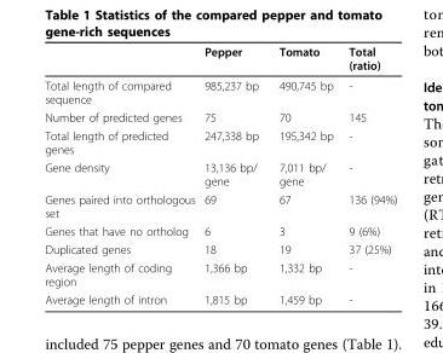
<table><thead><tr><td></td><td>Pepper</td><td>Tomato</td><td>Total (ratio)</td></tr></thead><tbody><tr><td>Total length of compared sequence</td><td>985,237 bp</td><td>490,745 bp</td><td>-</td></tr><tr><td>Number of predicted genes</td><td>75</td><td>70</td><td>145</td></tr><tr><td>Total length of predicted genes</td><td>247,338 bp</td><td>195,342 bp</td><td>-</td></tr><tr><td>Gene density</td><td>13,136 bp/ gene</td><td>7,011 bp/ gene</td><td>-</td></tr><tr><td>Genes paired into orthologous set</td><td>69</td><td>67</td><td>136 (94%)</td></tr><tr><td>Genes that have no ortholog</td><td>6</td><td>3</td><td>9 (6%)</td></tr><tr><td>Duplicated genes</td><td>18</td><td>19</td><td>37 (25%)</td></tr><tr><td>Average length of coding region</td><td>1,366 bp</td><td>1,332 bp</td><td>-</td></tr><tr><td>Average length of intron</td><td>1,815 bp</td><td>1,459 bp</td><td>-</td></tr></tbody></table>